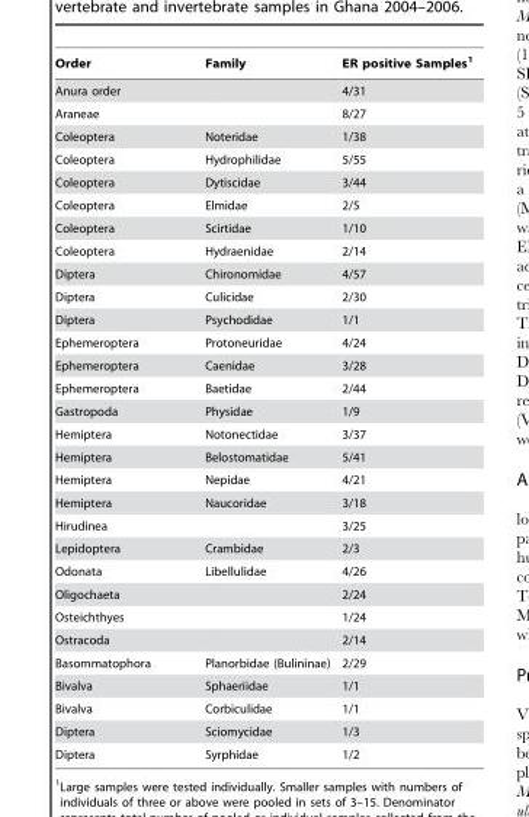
<table><thead><tr><td>Order</td><td>Family</td><td>ER positive Samples<sup>1</sup></td></tr></thead><tbody><tr><td>Anura order</td><td></td><td>4/31</td></tr><tr><td>Araneae</td><td></td><td>8/27</td></tr><tr><td>Coleoptera</td><td>Noteridae</td><td>1/38</td></tr><tr><td>Coleoptera</td><td>Hydrophilidae</td><td>5/55</td></tr><tr><td>Coleoptera</td><td>Dytiscidae</td><td>3/44</td></tr><tr><td>Coleoptera</td><td>Elmidae</td><td>2/5</td></tr><tr><td>Coleoptera</td><td>Scirtidae</td><td>1/10</td></tr><tr><td>Coleoptera</td><td>Hydraenidae</td><td>2/14</td></tr><tr><td>Diptera</td><td>Chironomidae</td><td>4/57</td></tr><tr><td>Diptera</td><td>Culicidae</td><td>2/30</td></tr><tr><td>Diptera</td><td>Psychodidae</td><td>1/1</td></tr><tr><td>Ephemeroptera</td><td>Protoneuridae</td><td>4/24</td></tr><tr><td>Ephemeroptera</td><td>Caenidae</td><td>3/28</td></tr><tr><td>Ephemeroptera</td><td>Baetidae</td><td>2/44</td></tr><tr><td>Gastropoda</td><td>Physidae</td><td>1/9</td></tr><tr><td>Hemiptera</td><td>Notonectidae</td><td>3/37</td></tr><tr><td>Hemiptera</td><td>Belostomatidae</td><td>5/41</td></tr><tr><td>Hemiptera</td><td>Nepidae</td><td>4/21</td></tr><tr><td>Hemiptera</td><td>Naucoridae</td><td>3/18</td></tr><tr><td>Hirudinea</td><td></td><td>3/25</td></tr><tr><td>Lepidoptera</td><td>Crambidae</td><td>2/3</td></tr><tr><td>Odonata</td><td>Libellulidae</td><td>4/26</td></tr><tr><td>Oligochaeta</td><td></td><td>2/24</td></tr><tr><td>Osteichthyes</td><td></td><td>1/24</td></tr><tr><td>Ostracoda</td><td></td><td>2/14</td></tr><tr><td>Basommatophora</td><td>Planorbidae (Bulininae)</td><td>2/29</td></tr><tr><td>Bivalva</td><td>Sphaeriidae</td><td>1/1</td></tr><tr><td>Bivalva</td><td>Corbiculidae</td><td>1/1</td></tr><tr><td>Diptera</td><td>Sciomycidae</td><td>1/3</td></tr><tr><td>Diptera</td><td>Syrphidae</td><td>1/2</td></tr></tbody></table>